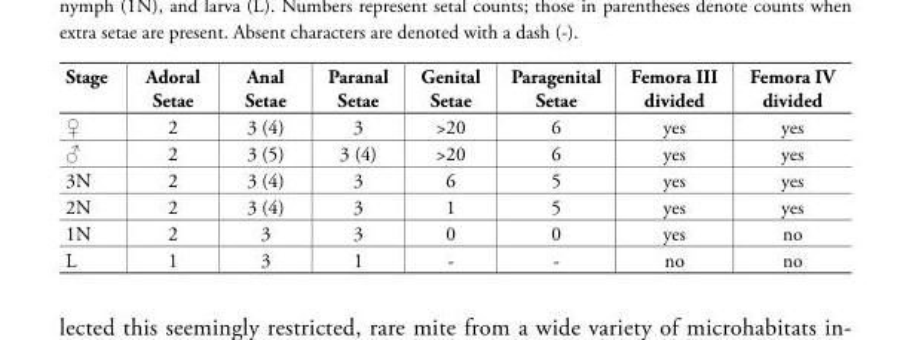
<table><thead><tr><td>Stage</td><td>Adoral Setae</td><td>Anal Setae</td><td>Paranal Setae</td><td>Genital Setae</td><td>Paragenital Setae</td><td>Femora III divided</td><td>Femora IV divided</td></tr></thead><tbody><tr><td>♀</td><td>2</td><td>3 (4)</td><td>3</td><td>&gt;20</td><td>6</td><td>yes</td><td>yes</td></tr><tr><td>♂</td><td>2</td><td>3 (5)</td><td>3 (4)</td><td>&gt;20</td><td>6</td><td>yes</td><td>yes</td></tr><tr><td>3N</td><td>2</td><td>3 (4)</td><td>3</td><td>6</td><td>5</td><td>yes</td><td>yes</td></tr><tr><td>2N</td><td>2</td><td>3 (4)</td><td>3</td><td>1</td><td>5</td><td>yes</td><td>yes</td></tr><tr><td>1N</td><td>2</td><td>3</td><td>3</td><td>0</td><td>0</td><td>yes</td><td>no</td></tr><tr><td>L</td><td>1</td><td>3</td><td>1</td><td>-</td><td>-</td><td>no</td><td>no</td></tr></tbody></table>